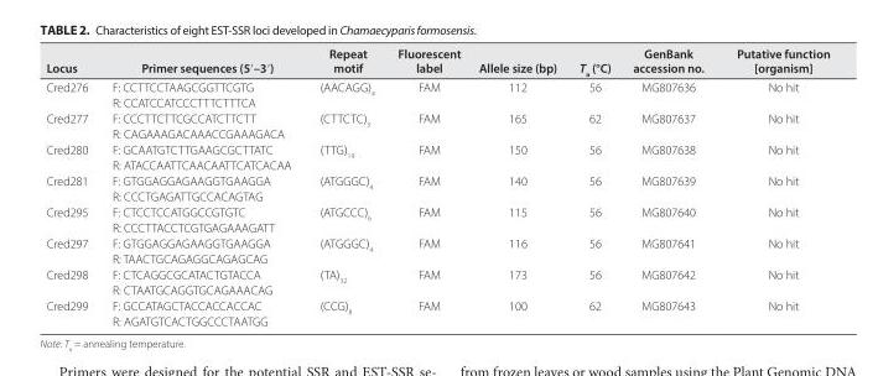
<table><thead><tr><td>Locus</td><td>Primer sequences (5′–3′)</td><td>Repeat motif</td><td>Fluorescent label</td><td>Allele size (bp)</td><td>T<sub>a</sub> (°C)</td><td>GenBank accession no.</td><td>Putative function [organism]</td></tr></thead><tbody><tr><td rowspan="2">Cred276</td><td>F: CCTTCCTAAGCGGTTCGTG</td><td rowspan="2">(AACAGG)<sub>4</sub></td><td rowspan="2">FAM</td><td rowspan="2">112</td><td rowspan="2">56</td><td rowspan="2">MG807636</td><td rowspan="2">No hit</td></tr><tr><td>R: CCATCCATCCCTTTCTTTCA</td></tr><tr><td rowspan="2">Cred277</td><td>F: CCCTTCTTCGCCATCTTCTT</td><td rowspan="2">(CTTCTC)<sub>3</sub></td><td rowspan="2">FAM</td><td rowspan="2">165</td><td rowspan="2">62</td><td rowspan="2">MG807637</td><td rowspan="2">No hit</td></tr><tr><td>R: CAGAAAGACAAACCGAAAGACA</td></tr><tr><td rowspan="2">Cred280</td><td>F: GCAATGTCTTGAAGCGCTTATC</td><td rowspan="2">(TTG)<sub>19</sub></td><td rowspan="2">FAM</td><td rowspan="2">150</td><td rowspan="2">56</td><td rowspan="2">MG807638</td><td rowspan="2">No hit</td></tr><tr><td>R: ATACCAATTCAACAATTCATCACAA</td></tr><tr><td rowspan="2">Cred281</td><td>F: GTGGAGGAGAAGGTGAAGGA</td><td rowspan="2">(ATGGGC)<sub>4</sub></td><td rowspan="2">FAM</td><td rowspan="2">140</td><td rowspan="2">56</td><td rowspan="2">MG807639</td><td rowspan="2">No hit</td></tr><tr><td>R: CCCTGAGATTGCCACAGTAG</td></tr><tr><td rowspan="2">Cred295</td><td>F: CTCCTCCATGGCCGTGTC</td><td rowspan="2">(ATGCCC)<sub>6</sub></td><td rowspan="2">FAM</td><td rowspan="2">115</td><td rowspan="2">56</td><td rowspan="2">MG807640</td><td rowspan="2">No hit</td></tr><tr><td>R: CCCTTACCTCGTGAGAAAGATT</td></tr><tr><td rowspan="2">Cred297</td><td>F: GTGGAGGAGAAGGTGAAGGA</td><td rowspan="2">(ATGGGC)<sub>4</sub></td><td rowspan="2">FAM</td><td rowspan="2">116</td><td rowspan="2">56</td><td rowspan="2">MG807641</td><td rowspan="2">No hit</td></tr><tr><td>R: TAACTGCAGAGGCAGAGCAG</td></tr><tr><td rowspan="2">Cred298</td><td>F: CTCAGGCGCATACTGTACCA</td><td rowspan="2">(TA)<sub>32</sub></td><td rowspan="2">FAM</td><td rowspan="2">173</td><td rowspan="2">56</td><td rowspan="2">MG807642</td><td rowspan="2">No hit</td></tr><tr><td>R: CTAATGCAGGTGCAGAAACAG</td></tr><tr><td rowspan="2">Cred299</td><td>F: GCCATAGCTACCACCACCAC</td><td rowspan="2">(CCG)<sub>8</sub></td><td rowspan="2">FAM</td><td rowspan="2">100</td><td rowspan="2">62</td><td rowspan="2">MG807643</td><td rowspan="2">No hit</td></tr><tr><td>R: AGATGTCACTGGCCCTAATGG</td></tr></tbody></table>